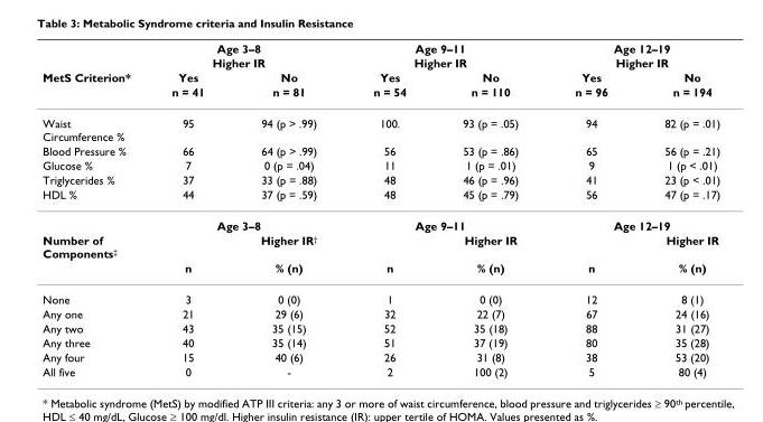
<table><thead><tr><td rowspan="4">MetS Criterion*</td><td rowspan="2" colspan="2">Age 3–8 Higher IR</td><td rowspan="2" colspan="2">Age 9–11 Higher IR</td><td rowspan="2" colspan="2">Age 12–19 Higher IR</td></tr><tr></tr><tr><td rowspan="2">Yes n = 41</td><td rowspan="2">No n = 81</td><td rowspan="2">Yes n = 54</td><td rowspan="2">No n = 110</td><td rowspan="2">Yes n = 96</td><td rowspan="2">No n = 194</td></tr><tr></tr></thead><tbody><tr><td>Waist Circumference %</td><td>95</td><td>94 (p &gt; .99)</td><td>100.</td><td>93 (p = .05)</td><td>94</td><td>82 (p = .01)</td></tr><tr><td>Blood Pressure %</td><td>66</td><td>64 (p &gt; .99)</td><td>56</td><td>53 (p = .86)</td><td>65</td><td>56 (p = .21)</td></tr><tr><td>Glucose %</td><td>7</td><td>0 (p = .04)</td><td>11</td><td>1 (p = .01)</td><td>9</td><td>1 (p &lt; .01)</td></tr><tr><td>Triglycerides %</td><td>37</td><td>33 (p = .88)</td><td>48</td><td>46 (p = .96)</td><td>41</td><td>23 (p &lt; .01)</td></tr><tr><td rowspan="2">HDL %</td><td>44</td><td>37 (p = .59)</td><td>48</td><td>45 (p = .79)</td><td>56</td><td>47 (p = .17)</td></tr><tr><td colspan="2">Age 3–8</td><td colspan="2">Age 9–11</td><td colspan="2">Age 12–19</td></tr><tr><td rowspan="2">Number of Components<sup>‡</sup></td><td></td><td>Higher IR<sup>†</sup></td><td></td><td>Higher IR</td><td></td><td>Higher IR</td></tr><tr><td>n</td><td>% (n)</td><td>n</td><td>% (n)</td><td>n</td><td>% (n)</td></tr><tr><td>None</td><td>3</td><td>0 (0)</td><td>1</td><td>0 (0)</td><td>12</td><td>8 (1)</td></tr><tr><td>Any one</td><td>21</td><td>29 (6)</td><td>32</td><td>22 (7)</td><td>67</td><td>24 (16)</td></tr><tr><td>Any two</td><td>43</td><td>35 (15)</td><td>52</td><td>35 (18)</td><td>88</td><td>31 (27)</td></tr><tr><td>Any three</td><td>40</td><td>35 (14)</td><td>51</td><td>37 (19)</td><td>80</td><td>35 (28)</td></tr><tr><td>Any four</td><td>15</td><td>40 (6)</td><td>26</td><td>31 (8)</td><td>38</td><td>53 (20)</td></tr><tr><td>All five</td><td>0</td><td>-</td><td>2</td><td>100 (2)</td><td>5</td><td>80 (4)</td></tr></tbody></table>